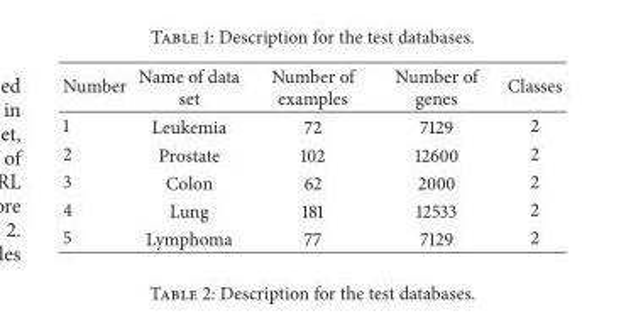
<table><thead><tr><td>Number</td><td>Name of data set</td><td>Number of examples</td><td>Number of genes</td><td>Classes</td></tr></thead><tbody><tr><td>1</td><td>Leukemia</td><td>72</td><td>7129</td><td>2</td></tr><tr><td>2</td><td>Prostate</td><td>102</td><td>12600</td><td>2</td></tr><tr><td>3</td><td>Colon</td><td>62</td><td>2000</td><td>2</td></tr><tr><td>4</td><td>Lung</td><td>181</td><td>12533</td><td>2</td></tr><tr><td>5</td><td>Lymphoma</td><td>77</td><td>7129</td><td>2</td></tr></tbody></table>